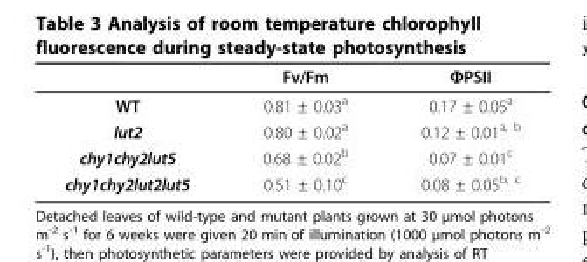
<table><thead><tr><td></td><td>Fv/Fm</td><td>ΦPSII</td></tr></thead><tbody><tr><td>WT</td><td>0.81 ± 0.03<sup>a</sup></td><td>0.17 ± 0.05<sup>a</sup></td></tr><tr><td>lut2</td><td>0.80 ± 0.02<sup>a</sup></td><td>0.12 ± 0.01<sup>a, b</sup></td></tr><tr><td>chy1chy2lut5</td><td>0.68 ± 0.02<sup>b</sup></td><td>0.07 ± 0.01<sup>c</sup></td></tr><tr><td>chy1chy2lut2lut5</td><td>0.51 ± 0.10<sup>c</sup></td><td>0.08 ± 0.05<sup>b, c</sup></td></tr></tbody></table>